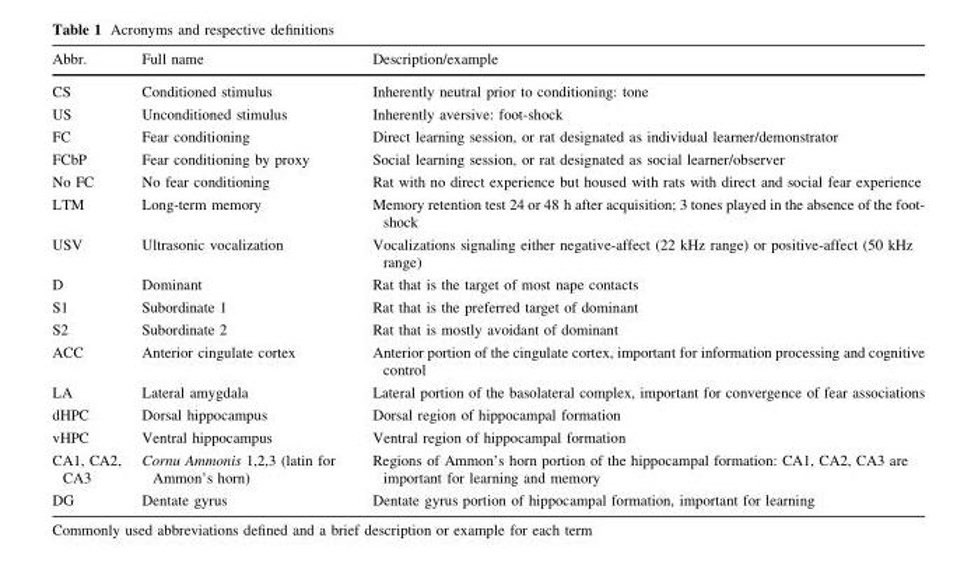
<table><thead><tr><td>Abbr.</td><td>Full name</td><td>Description/example</td></tr></thead><tbody><tr><td>CS</td><td>Conditioned stimulus</td><td>Inherently neutral prior to conditioning: tone</td></tr><tr><td>US</td><td>Unconditioned stimulus</td><td>Inherently aversive: foot-shock</td></tr><tr><td>FC</td><td>Fear conditioning</td><td>Direct learning session, or rat designated as individual learner/demonstrator</td></tr><tr><td>FCbP</td><td>Fear conditioning by proxy</td><td>Social learning session, or rat designated as social learner/observer</td></tr><tr><td>No FC</td><td>No fear conditioning</td><td>Rat with no direct experience but housed with rats with direct and social fear experience</td></tr><tr><td>LTM</td><td>Long-term memory</td><td>Memory retention test 24 or 48 h after acquisition; 3 tones played in the absence of the foot- shock</td></tr><tr><td>USV</td><td>Ultrasonic vocalization</td><td>Vocalizations signaling either negative-affect (22 kHz range) or positive-affect (50 kHz range)</td></tr><tr><td>D</td><td>Dominant</td><td>Rat that is the target of most nape contacts</td></tr><tr><td>S1</td><td>Subordinate 1</td><td>Rat that is the preferred target of dominant</td></tr><tr><td>S2</td><td>Subordinate 2</td><td>Rat that is mostly avoidant of dominant</td></tr><tr><td>ACC</td><td>Anterior cingulate cortex</td><td>Anterior portion of the cingulate cortex, important for information processing and cognitive control</td></tr><tr><td>LA</td><td>Lateral amygdala</td><td>Lateral portion of the basolateral complex, important for convergence of fear associations</td></tr><tr><td>dHPC</td><td>Dorsal hippocampus</td><td>Dorsal region of hippocampal formation</td></tr><tr><td>vHPC</td><td>Ventral hippocampus</td><td>Ventral region of hippocampal formation</td></tr><tr><td>CA1, CA2, CA3</td><td>Cornu Ammonis 1,2,3 (latin for Ammon’s horn)</td><td>Regions of Ammon’s horn portion of the hippocampal formation: CA1, CA2, CA3 are important for learning and memory</td></tr><tr><td>DG</td><td>Dentate gyrus</td><td>Dentate gyrus portion of hippocampal formation, important for learning</td></tr></tbody></table>